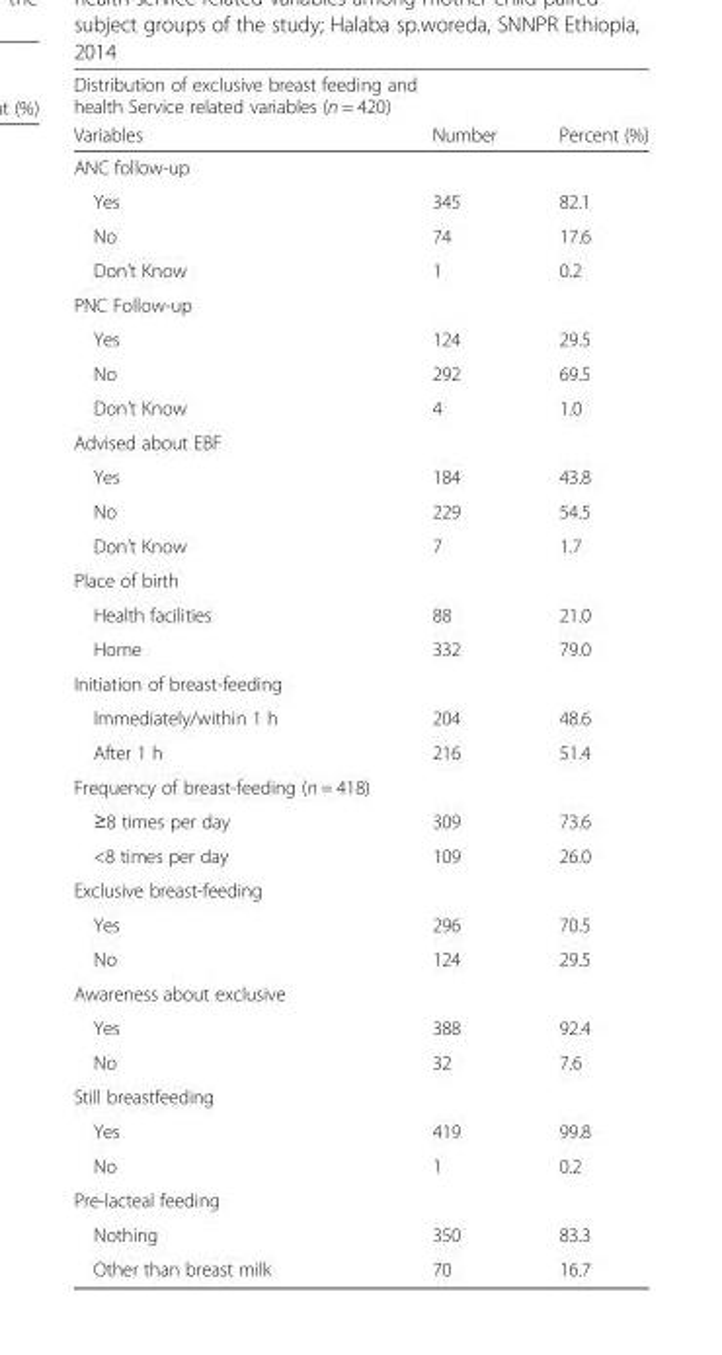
<table><thead><tr><td colspan="3">Distribution of exclusive breast feeding and health Service related variables (n = 420)</td></tr><tr><td>Variables</td><td>Number</td><td>Percent (%)</td></tr></thead><tbody><tr><td colspan="3">ANC follow-up</td></tr><tr><td>Yes</td><td>345</td><td>82.1</td></tr><tr><td>No</td><td>74</td><td>17.6</td></tr><tr><td>Don’t Know</td><td>1</td><td>0.2</td></tr><tr><td colspan="3">PNC Follow-up</td></tr><tr><td>Yes</td><td>124</td><td>29.5</td></tr><tr><td>No</td><td>292</td><td>69.5</td></tr><tr><td>Don’t Know</td><td>4</td><td>1.0</td></tr><tr><td colspan="3">Advised about EBF</td></tr><tr><td>Yes</td><td>184</td><td>43.8</td></tr><tr><td>No</td><td>229</td><td>54.5</td></tr><tr><td>Don’t Know</td><td>7</td><td>1.7</td></tr><tr><td colspan="3">Place of birth</td></tr><tr><td>Health facilities</td><td>88</td><td>21.0</td></tr><tr><td>Home</td><td>332</td><td>79.0</td></tr><tr><td colspan="3">Initiation of breast-feeding</td></tr><tr><td>Immediately/within 1 h</td><td>204</td><td>48.6</td></tr><tr><td>After 1 h</td><td>216</td><td>51.4</td></tr><tr><td colspan="3">Frequency of breast-feeding (n = 418)</td></tr><tr><td>≥8 times per day</td><td>309</td><td>73.6</td></tr><tr><td>&lt;8 times per day</td><td>109</td><td>26.0</td></tr><tr><td colspan="3">Exclusive breast-feeding</td></tr><tr><td>Yes</td><td>296</td><td>70.5</td></tr><tr><td>No</td><td>124</td><td>29.5</td></tr><tr><td colspan="3">Awareness about exclusive</td></tr><tr><td>Yes</td><td>388</td><td>92.4</td></tr><tr><td>No</td><td>32</td><td>7.6</td></tr><tr><td colspan="3">Still breastfeeding</td></tr><tr><td>Yes</td><td>419</td><td>99.8</td></tr><tr><td>No</td><td>1</td><td>0.2</td></tr><tr><td colspan="3">Pre-lacteal feeding</td></tr><tr><td>Nothing</td><td>350</td><td>83.3</td></tr><tr><td>Other than breast milk</td><td>70</td><td>16.7</td></tr></tbody></table>